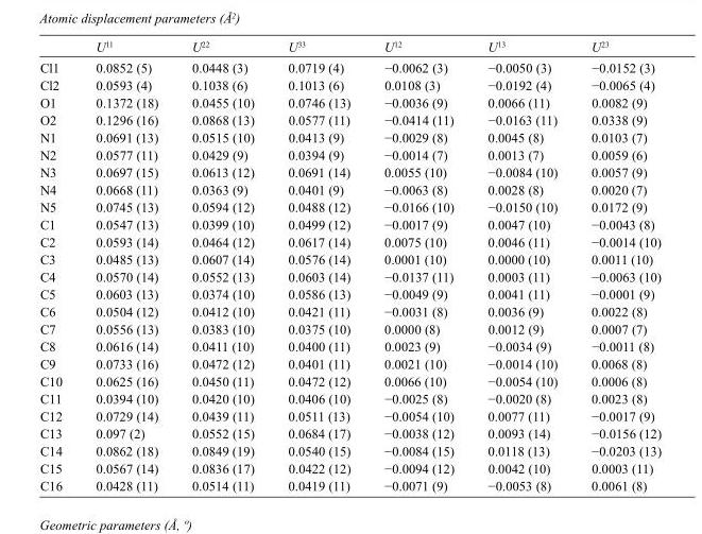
<table><thead><tr><td></td><td>U<sup>11</sup></td><td>U<sup>22</sup></td><td>U<sup>33</sup></td><td>U<sup>12</sup></td><td>U<sup>13</sup></td><td>U<sup>23</sup></td></tr></thead><tbody><tr><td>Cl1</td><td>0.0852 (5)</td><td>0.0448 (3)</td><td>0.0719 (4)</td><td>−0.0062 (3)</td><td>−0.0050 (3)</td><td>−0.0152 (3)</td></tr><tr><td>Cl2</td><td>0.0593 (4)</td><td>0.1038 (6)</td><td>0.1013 (6)</td><td>0.0108 (3)</td><td>−0.0192 (4)</td><td>−0.0065 (4)</td></tr><tr><td>O1</td><td>0.1372 (18)</td><td>0.0455 (10)</td><td>0.0746 (13)</td><td>−0.0036 (9)</td><td>0.0066 (11)</td><td>0.0082 (9)</td></tr><tr><td>O2</td><td>0.1296 (16)</td><td>0.0868 (13)</td><td>0.0577 (11)</td><td>−0.0414 (11)</td><td>−0.0163 (11)</td><td>0.0338 (9)</td></tr><tr><td>N1</td><td>0.0691 (13)</td><td>0.0515 (10)</td><td>0.0413 (9)</td><td>−0.0029 (8)</td><td>0.0045 (8)</td><td>0.0103 (7)</td></tr><tr><td>N2</td><td>0.0577 (11)</td><td>0.0429 (9)</td><td>0.0394 (9)</td><td>−0.0014 (7)</td><td>0.0013 (7)</td><td>0.0059 (6)</td></tr><tr><td>N3</td><td>0.0697 (15)</td><td>0.0613 (12)</td><td>0.0691 (14)</td><td>0.0055 (10)</td><td>−0.0084 (10)</td><td>0.0057 (9)</td></tr><tr><td>N4</td><td>0.0668 (11)</td><td>0.0363 (9)</td><td>0.0401 (9)</td><td>−0.0063 (8)</td><td>0.0028 (8)</td><td>0.0020 (7)</td></tr><tr><td>N5</td><td>0.0745 (13)</td><td>0.0594 (12)</td><td>0.0488 (12)</td><td>−0.0166 (10)</td><td>−0.0150 (10)</td><td>0.0172 (9)</td></tr><tr><td>C1</td><td>0.0547 (13)</td><td>0.0399 (10)</td><td>0.0499 (12)</td><td>−0.0017 (9)</td><td>0.0047 (10)</td><td>−0.0043 (8)</td></tr><tr><td>C2</td><td>0.0593 (14)</td><td>0.0464 (12)</td><td>0.0617 (14)</td><td>0.0075 (10)</td><td>0.0046 (11)</td><td>−0.0014 (10)</td></tr><tr><td>C3</td><td>0.0485 (13)</td><td>0.0607 (14)</td><td>0.0576 (14)</td><td>0.0001 (10)</td><td>0.0000 (10)</td><td>0.0011 (10)</td></tr><tr><td>C4</td><td>0.0570 (14)</td><td>0.0552 (13)</td><td>0.0603 (14)</td><td>−0.0137 (11)</td><td>0.0003 (11)</td><td>−0.0063 (10)</td></tr><tr><td>C5</td><td>0.0603 (13)</td><td>0.0374 (10)</td><td>0.0586 (13)</td><td>−0.0049 (9)</td><td>0.0041 (11)</td><td>−0.0001 (9)</td></tr><tr><td>C6</td><td>0.0504 (12)</td><td>0.0412 (10)</td><td>0.0421 (11)</td><td>−0.0031 (8)</td><td>0.0036 (9)</td><td>0.0022 (8)</td></tr><tr><td>C7</td><td>0.0556 (13)</td><td>0.0383 (10)</td><td>0.0375 (10)</td><td>0.0000 (8)</td><td>0.0012 (9)</td><td>0.0007 (7)</td></tr><tr><td>C8</td><td>0.0616 (14)</td><td>0.0411 (10)</td><td>0.0400 (11)</td><td>0.0023 (9)</td><td>−0.0034 (9)</td><td>−0.0011 (8)</td></tr><tr><td>C9</td><td>0.0733 (16)</td><td>0.0472 (12)</td><td>0.0401 (11)</td><td>0.0021 (10)</td><td>−0.0014 (10)</td><td>0.0068 (8)</td></tr><tr><td>C10</td><td>0.0625 (16)</td><td>0.0450 (11)</td><td>0.0472 (12)</td><td>0.0066 (10)</td><td>−0.0054 (10)</td><td>0.0006 (8)</td></tr><tr><td>C11</td><td>0.0394 (10)</td><td>0.0420 (10)</td><td>0.0406 (10)</td><td>−0.0025 (8)</td><td>−0.0020 (8)</td><td>0.0023 (8)</td></tr><tr><td>C12</td><td>0.0729 (14)</td><td>0.0439 (11)</td><td>0.0511 (13)</td><td>−0.0054 (10)</td><td>0.0077 (11)</td><td>−0.0017 (9)</td></tr><tr><td>C13</td><td>0.097 (2)</td><td>0.0552 (15)</td><td>0.0684 (17)</td><td>−0.0038 (12)</td><td>0.0093 (14)</td><td>−0.0156 (12)</td></tr><tr><td>C14</td><td>0.0862 (18)</td><td>0.0849 (19)</td><td>0.0540 (15)</td><td>−0.0084 (15)</td><td>0.0118 (13)</td><td>−0.0203 (13)</td></tr><tr><td>C15</td><td>0.0567 (14)</td><td>0.0836 (17)</td><td>0.0422 (12)</td><td>−0.0094 (12)</td><td>0.0042 (10)</td><td>0.0003 (11)</td></tr><tr><td>C16</td><td>0.0428 (11)</td><td>0.0514 (11)</td><td>0.0419 (11)</td><td>−0.0071 (9)</td><td>−0.0053 (8)</td><td>0.0061 (8)</td></tr></tbody></table>